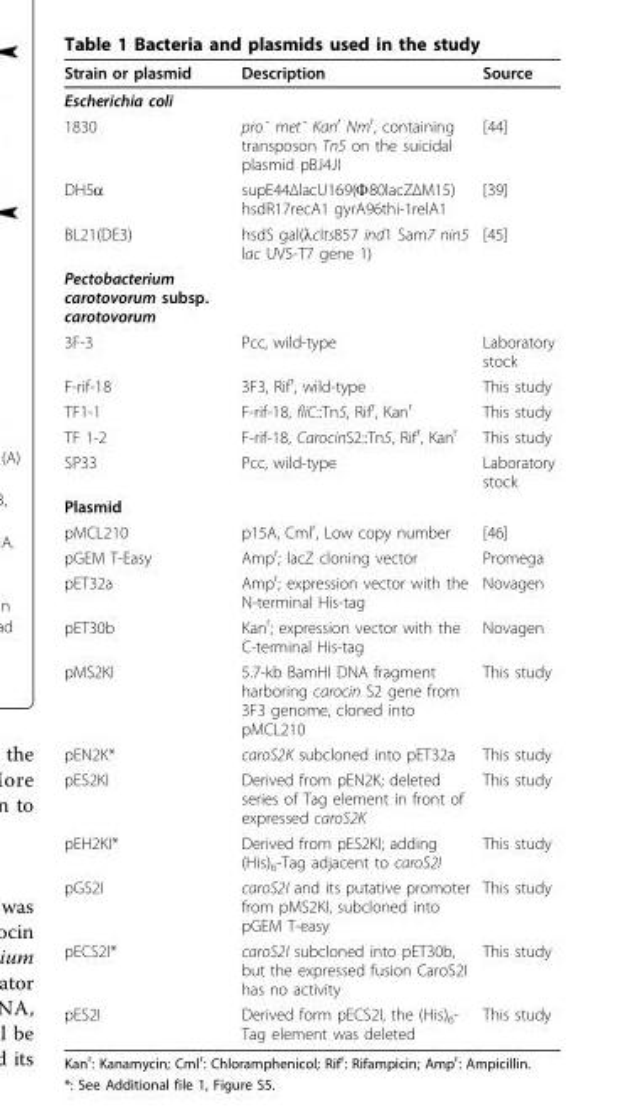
<table><thead><tr><td>Strain or plasmid</td><td>Description</td><td>Source</td></tr></thead><tbody><tr><td colspan="3">Escherichia coli</td></tr><tr><td>1830</td><td>pro¯ met¯ Kan<sup>r</sup> Nm<sup>r</sup>, containing transposon Tn5 on the suicidal plasmid pBJ4JI</td><td>[44]</td></tr><tr><td>DH5α</td><td>supE44ΔlacU169(Φ80lacZΔM15) hsdR17recA1 gyrA96thi-1relA1</td><td>[39]</td></tr><tr><td>BL21(DE3)</td><td>hsdS gal(λcIts857 ind1 Sam7 nin5 lac UV5-T7 gene 1)</td><td>[45]</td></tr><tr><td colspan="3">Pectobacterium carotovorum subsp. carotovorum</td></tr><tr><td>3F-3</td><td>Pcc, wild-type</td><td>Laboratory stock</td></tr><tr><td>F-rif-18</td><td>3F3, Rif<sup>r</sup>, wild-type</td><td>This study</td></tr><tr><td>TF1-1</td><td>F-rif-18, fliC::Tn5, Rif<sup>r</sup>, Kan<sup>r</sup></td><td>This study</td></tr><tr><td>TF 1-2</td><td>F-rif-18, CarocinS2::Tn5, Rif<sup>r</sup>, Kan<sup>r</sup></td><td>This study</td></tr><tr><td>SP33</td><td>Pcc, wild-type</td><td>Laboratory stock</td></tr><tr><td colspan="3">Plasmid</td></tr><tr><td>pMCL210</td><td>p15A, Cml<sup>r</sup>, Low copy number</td><td>[46]</td></tr><tr><td>pGEM T-Easy</td><td>Amp<sup>r</sup>; lacZ cloning vector</td><td>Promega</td></tr><tr><td>pET32a</td><td>Amp<sup>r</sup>; expression vector with the N-terminal His-tag</td><td>Novagen</td></tr><tr><td>pET30b</td><td>Kan<sup>r</sup>; expression vector with the C-terminal His-tag</td><td>Novagen</td></tr><tr><td>pMS2KI</td><td>5.7-kb BamHI DNA fragment harboring carocin S2 gene from 3F3 genome, cloned into pMCL210</td><td>This study</td></tr><tr><td>pEN2K*</td><td>caroS2K subcloned into pET32a</td><td>This study</td></tr><tr><td>pES2KI</td><td>Derived from pEN2K; deleted series of Tag element in front of expressed caroS2K</td><td>This study</td></tr><tr><td>pEH2KI*</td><td>Derived from pES2KI; adding (His)<sub>6</sub>-Tag adjacent to caroS2I</td><td>This study</td></tr><tr><td>pGS2I</td><td>caroS2I and its putative promoter from pMS2KI, subcloned into pGEM T-easy</td><td>This study</td></tr><tr><td>pECS2I*</td><td>caroS2I subcloned into pET30b, but the expressed fusion CaroS2I has no activity</td><td>This study</td></tr><tr><td>pES2I</td><td>Derived form pECS2I, the (His)<sub>6</sub>- Tag element was deleted</td><td>This study</td></tr></tbody></table>